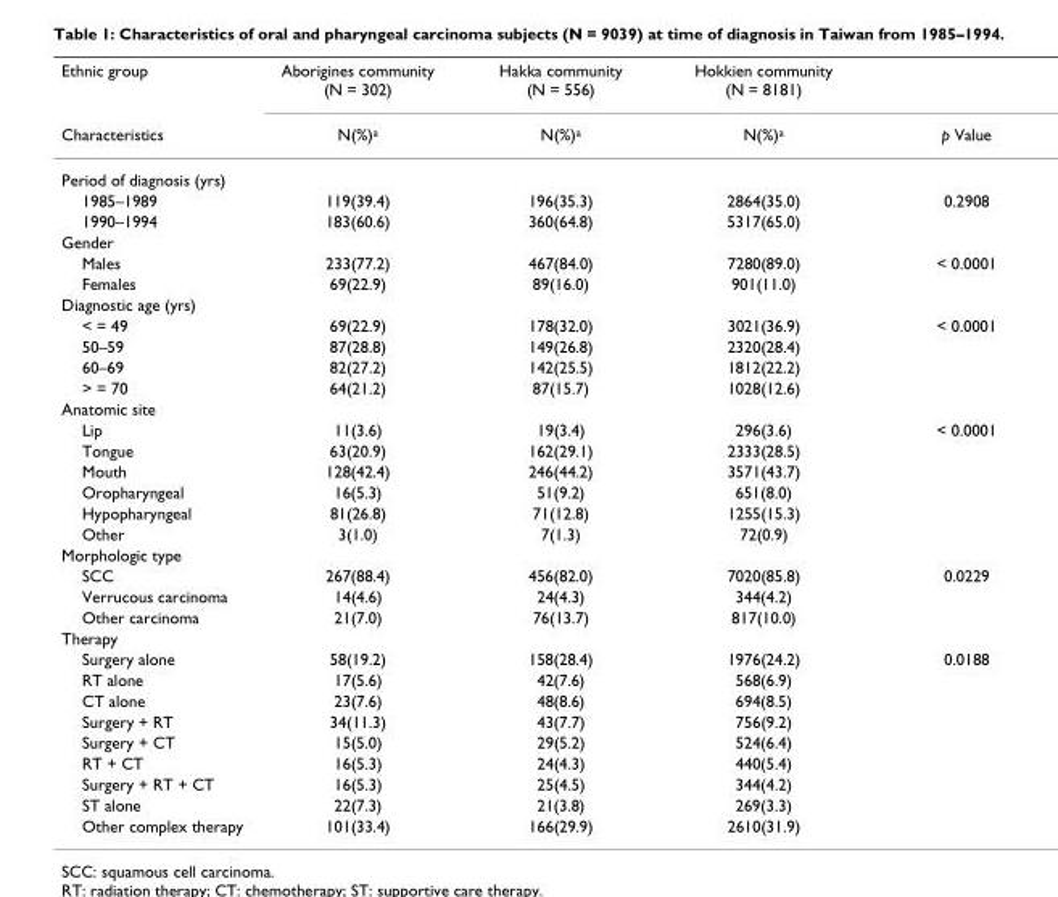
<table><thead><tr><td rowspan="2">Ethnic group Characteristics</td><td rowspan="2">Aborigines community (N = 302) N(%)<sup>a</sup></td><td rowspan="2">Hakka community (N = 556) N(%)<sup>a</sup></td><td rowspan="2">Hokkien community (N = 8181) N(%)<sup>a</sup></td><td rowspan="2">p Value</td></tr><tr></tr></thead><tbody><tr><td colspan="5">Period of diagnosis (yrs)</td></tr><tr><td>1985–1989</td><td>119(39.4)</td><td>196(35.3)</td><td>2864(35.0)</td><td>0.2908</td></tr><tr><td>1990–1994</td><td>183(60.6)</td><td>360(64.8)</td><td>5317(65.0)</td><td></td></tr><tr><td colspan="5">Gender</td></tr><tr><td>Males</td><td>233(77.2)</td><td>467(84.0)</td><td>7280(89.0)</td><td>&lt; 0.0001</td></tr><tr><td>Females</td><td>69(22.9)</td><td>89(16.0)</td><td>901(11.0)</td><td></td></tr><tr><td colspan="5">Diagnostic age (yrs)</td></tr><tr><td>&lt; = 49</td><td>69(22.9)</td><td>178(32.0)</td><td>3021(36.9)</td><td>&lt; 0.0001</td></tr><tr><td>50–59</td><td>87(28.8)</td><td>149(26.8)</td><td>2320(28.4)</td><td></td></tr><tr><td>60–69</td><td>82(27.2)</td><td>142(25.5)</td><td>1812(22.2)</td><td></td></tr><tr><td>&gt; = 70</td><td>64(21.2)</td><td>87(15.7)</td><td>1028(12.6)</td><td></td></tr><tr><td colspan="5">Anatomic site</td></tr><tr><td>Lip</td><td>11(3.6)</td><td>19(3.4)</td><td>296(3.6)</td><td>&lt; 0.0001</td></tr><tr><td>Tongue</td><td>63(20.9)</td><td>162(29.1)</td><td>2333(28.5)</td><td></td></tr><tr><td>Mouth</td><td>128(42.4)</td><td>246(44.2)</td><td>3571(43.7)</td><td></td></tr><tr><td>Oropharyngeal</td><td>16(5.3)</td><td>51(9.2)</td><td>651(8.0)</td><td></td></tr><tr><td>Hypopharyngeal</td><td>81(26.8)</td><td>71(12.8)</td><td>1255(15.3)</td><td></td></tr><tr><td>Other</td><td>3(1.0)</td><td>7(1.3)</td><td>72(0.9)</td><td></td></tr><tr><td colspan="5">Morphologic type</td></tr><tr><td>SCC</td><td>267(88.4)</td><td>456(82.0)</td><td>7020(85.8)</td><td>0.0229</td></tr><tr><td>Verrucous carcinoma</td><td>14(4.6)</td><td>24(4.3)</td><td>344(4.2)</td><td></td></tr><tr><td>Other carcinoma</td><td>21(7.0)</td><td>76(13.7)</td><td>817(10.0)</td><td></td></tr><tr><td colspan="5">Therapy</td></tr><tr><td>Surgery alone</td><td>58(19.2)</td><td>158(28.4)</td><td>1976(24.2)</td><td>0.0188</td></tr><tr><td>RT alone</td><td>17(5.6)</td><td>42(7.6)</td><td>568(6.9)</td><td></td></tr><tr><td>CT alone</td><td>23(7.6)</td><td>48(8.6)</td><td>694(8.5)</td><td></td></tr><tr><td>Surgery + RT</td><td>34(11.3)</td><td>43(7.7)</td><td>756(9.2)</td><td></td></tr><tr><td>Surgery + CT</td><td>15(5.0)</td><td>29(5.2)</td><td>524(6.4)</td><td></td></tr><tr><td>RT + CT</td><td>16(5.3)</td><td>24(4.3)</td><td>440(5.4)</td><td></td></tr><tr><td>Surgery + RT + CT</td><td>16(5.3)</td><td>25(4.5)</td><td>344(4.2)</td><td></td></tr><tr><td>ST alone</td><td>22(7.3)</td><td>21(3.8)</td><td>269(3.3)</td><td></td></tr><tr><td>Other complex therapy</td><td>101(33.4)</td><td>166(29.9)</td><td>2610(31.9)</td><td></td></tr></tbody></table>